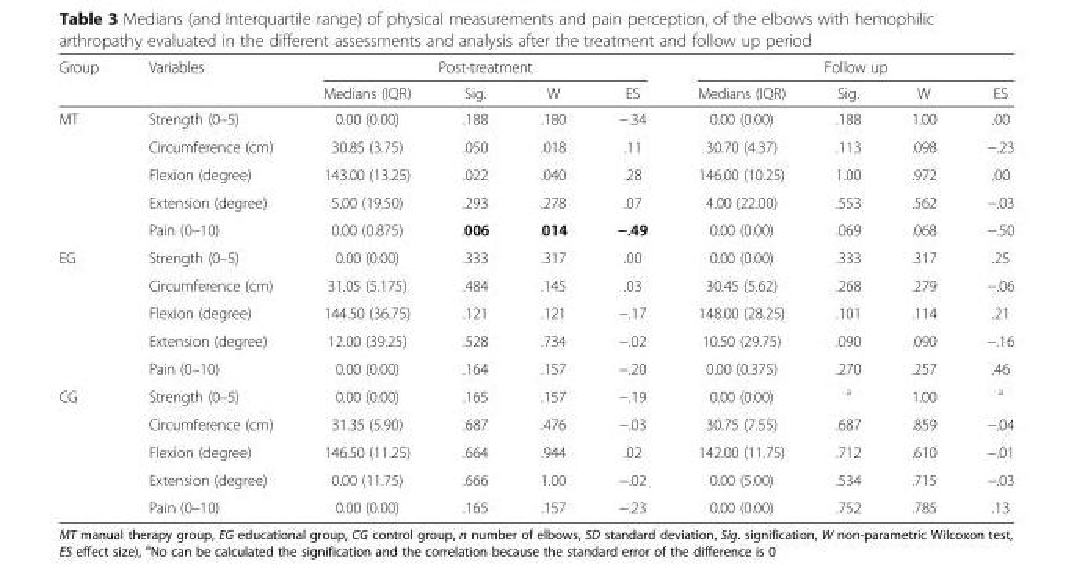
<table><thead><tr><td rowspan="2">Group</td><td rowspan="2">Variables</td><td colspan="4">Post-treatment</td><td colspan="4">Follow up</td></tr><tr><td>Medians (IQR)</td><td>Sig.</td><td>W</td><td>ES</td><td>Medians (IQR)</td><td>Sig.</td><td>W</td><td>ES</td></tr></thead><tbody><tr><td rowspan="5">MT</td><td>Strength (0–5)</td><td>0.00 (0.00)</td><td>.188</td><td>.180</td><td>−.34</td><td>0.00 (0.00)</td><td>.188</td><td>1.00</td><td>.00</td></tr><tr><td>Circumference (cm)</td><td>30.85 (3.75)</td><td>.050</td><td>.018</td><td>.11</td><td>30.70 (4.37)</td><td>.113</td><td>.098</td><td>−.23</td></tr><tr><td>Flexion (degree)</td><td>143.00 (13.25)</td><td>.022</td><td>.040</td><td>.28</td><td>146.00 (10.25)</td><td>1.00</td><td>.972</td><td>.00</td></tr><tr><td>Extension (degree)</td><td>5.00 (19.50)</td><td>.293</td><td>.278</td><td>.07</td><td>4.00 (22.00)</td><td>.553</td><td>.562</td><td>−.03</td></tr><tr><td>Pain (0–10)</td><td>0.00 (0.875)</td><td>.006</td><td>.014</td><td>−.49</td><td>0.00 (0.00)</td><td>.069</td><td>.068</td><td>−.50</td></tr><tr><td rowspan="5">EG</td><td>Strength (0–5)</td><td>0.00 (0.00)</td><td>.333</td><td>.317</td><td>.00</td><td>0.00 (0.00)</td><td>.333</td><td>.317</td><td>.25</td></tr><tr><td>Circumference (cm)</td><td>31.05 (5.175)</td><td>.484</td><td>.145</td><td>.03</td><td>30.45 (5.62)</td><td>.268</td><td>.279</td><td>−.06</td></tr><tr><td>Flexion (degree)</td><td>144.50 (36.75)</td><td>.121</td><td>.121</td><td>−.17</td><td>148.00 (28.25)</td><td>.101</td><td>.114</td><td>.21</td></tr><tr><td>Extension (degree)</td><td>12.00 (39.25)</td><td>.528</td><td>.734</td><td>−.02</td><td>10.50 (29.75)</td><td>.090</td><td>.090</td><td>−.16</td></tr><tr><td>Pain (0–10)</td><td>0.00 (0.00)</td><td>.164</td><td>.157</td><td>−.20</td><td>0.00 (0.375)</td><td>.270</td><td>.257</td><td>.46</td></tr><tr><td rowspan="5">CG</td><td>Strength (0–5)</td><td>0.00 (0.00)</td><td>.165</td><td>.157</td><td>−.19</td><td>0.00 (0.00)</td><td><sup>a</sup></td><td>1.00</td><td><sup>a</sup></td></tr><tr><td>Circumference (cm)</td><td>31.35 (5.90)</td><td>.687</td><td>.476</td><td>−.03</td><td>30.75 (7.55)</td><td>.687</td><td>.859</td><td>−.04</td></tr><tr><td>Flexion (degree)</td><td>146.50 (11.25)</td><td>.664</td><td>.944</td><td>.02</td><td>142.00 (11.75)</td><td>.712</td><td>.610</td><td>−.01</td></tr><tr><td>Extension (degree)</td><td>0.00 (11.75)</td><td>.666</td><td>1.00</td><td>−.02</td><td>0.00 (5.00)</td><td>.534</td><td>.715</td><td>−.03</td></tr><tr><td>Pain (0–10)</td><td>0.00 (0.00)</td><td>.165</td><td>.157</td><td>−.23</td><td>0.00 (0.00)</td><td>.752</td><td>.785</td><td>.13</td></tr></tbody></table>